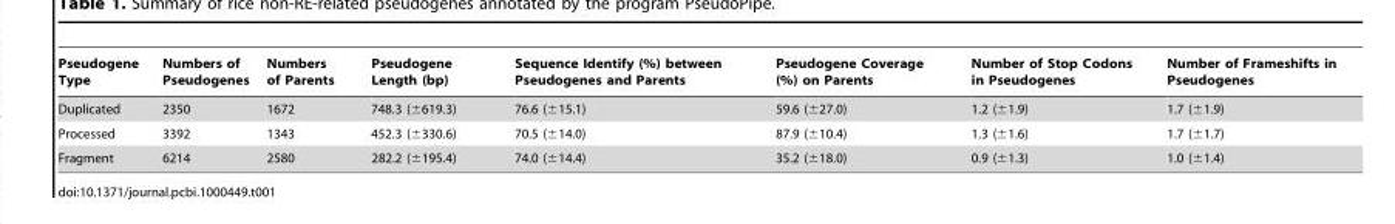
<table><thead><tr><td>Pseudogene Type</td><td>Numbers of Pseudogenes</td><td>Numbers of Parents</td><td>Pseudogene Length (bp)</td><td>Sequence Identify (%) between Pseudogenes and Parents</td><td>Pseudogene Coverage (%) on Parents</td><td>Number of Stop Codons in Pseudogenes</td><td>Number of Frameshifts in Pseudogenes</td></tr></thead><tbody><tr><td>Duplicated</td><td>2350</td><td>1672</td><td>748.3 (±619.3)</td><td>76.6 (±15.1)</td><td>59.6 (±27.0)</td><td>1.2 (±1.9)</td><td>1.7 (±1.9)</td></tr><tr><td>Processed</td><td>3392</td><td>1343</td><td>452.3 (±330.6)</td><td>70.5 (±14.0)</td><td>87.9 (±10.4)</td><td>1.3 (±1.6)</td><td>1.7 (±1.7)</td></tr><tr><td>Fragment</td><td>6214</td><td>2580</td><td>282.2 (±195.4)</td><td>74.0 (±14.4)</td><td>35.2 (±18.0)</td><td>0.9 (±1.3)</td><td>1.0 (±1.4)</td></tr></tbody></table>